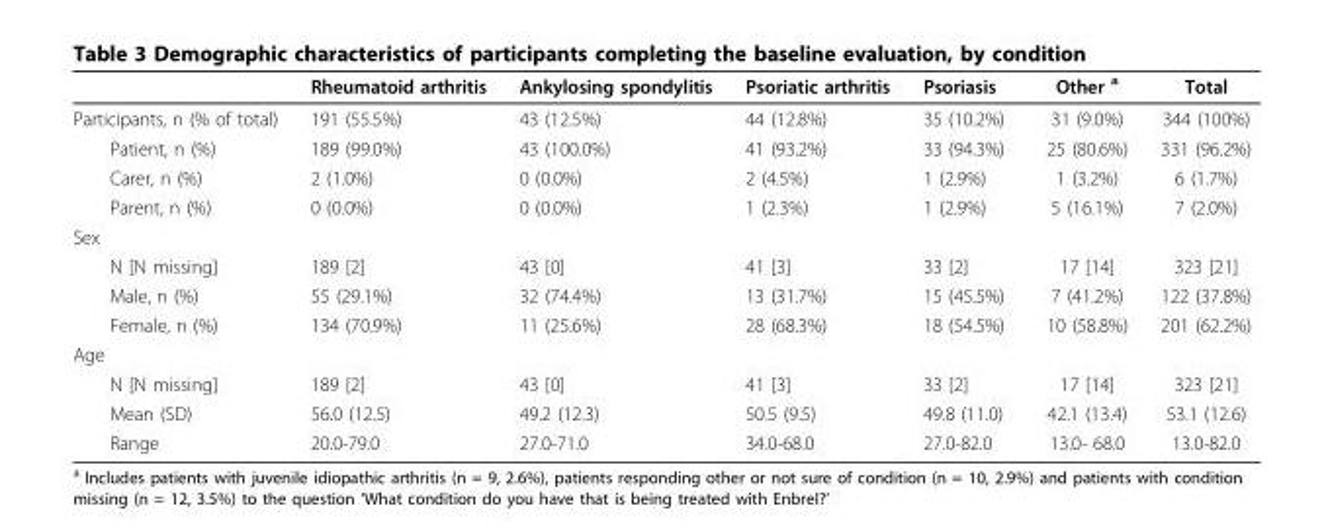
<table><thead><tr><td></td><td>Rheumatoid arthritis</td><td>Ankylosing spondylitis</td><td>Psoriatic arthritis</td><td>Psoriasis</td><td>Other <sup>a</sup></td><td>Total</td></tr></thead><tbody><tr><td>Participants, n (% of total)</td><td>191 (55.5%)</td><td>43 (12.5%)</td><td>44 (12.8%)</td><td>35 (10.2%)</td><td>31 (9.0%)</td><td>344 (100%)</td></tr><tr><td>Patient, n (%)</td><td>189 (99.0%)</td><td>43 (100.0%)</td><td>41 (93.2%)</td><td>33 (94.3%)</td><td>25 (80.6%)</td><td>331 (96.2%)</td></tr><tr><td>Carer, n (%)</td><td>2 (1.0%)</td><td>0 (0.0%)</td><td>2 (4.5%)</td><td>1 (2.9%)</td><td>1 (3.2%)</td><td>6 (1.7%)</td></tr><tr><td>Parent, n (%)</td><td>0 (0.0%)</td><td>0 (0.0%)</td><td>1 (2.3%)</td><td>1 (2.9%)</td><td>5 (16.1%)</td><td>7 (2.0%)</td></tr><tr><td colspan="7">Sex</td></tr><tr><td>N [N missing]</td><td>189 [2]</td><td>43 [0]</td><td>41 [3]</td><td>33 [2]</td><td>17 [14]</td><td>323 [21]</td></tr><tr><td>Male, n (%)</td><td>55 (29.1%)</td><td>32 (74.4%)</td><td>13 (31.7%)</td><td>15 (45.5%)</td><td>7 (41.2%)</td><td>122 (37.8%)</td></tr><tr><td>Female, n (%)</td><td>134 (70.9%)</td><td>11 (25.6%)</td><td>28 (68.3%)</td><td>18 (54.5%)</td><td>10 (58.8%)</td><td>201 (62.2%)</td></tr><tr><td colspan="7">Age</td></tr><tr><td>N [N missing]</td><td>189 [2]</td><td>43 [0]</td><td>41 [3]</td><td>33 [2]</td><td>17 [14]</td><td>323 [21]</td></tr><tr><td>Mean (SD)</td><td>56.0 (12.5)</td><td>49.2 (12.3)</td><td>50.5 (9.5)</td><td>49.8 (11.0)</td><td>42.1 (13.4)</td><td>53.1 (12.6)</td></tr><tr><td>Range</td><td>20.0-79.0</td><td>27.0-71.0</td><td>34.0-68.0</td><td>27.0-82.0</td><td>13.0- 68.0</td><td>13.0-82.0</td></tr></tbody></table>